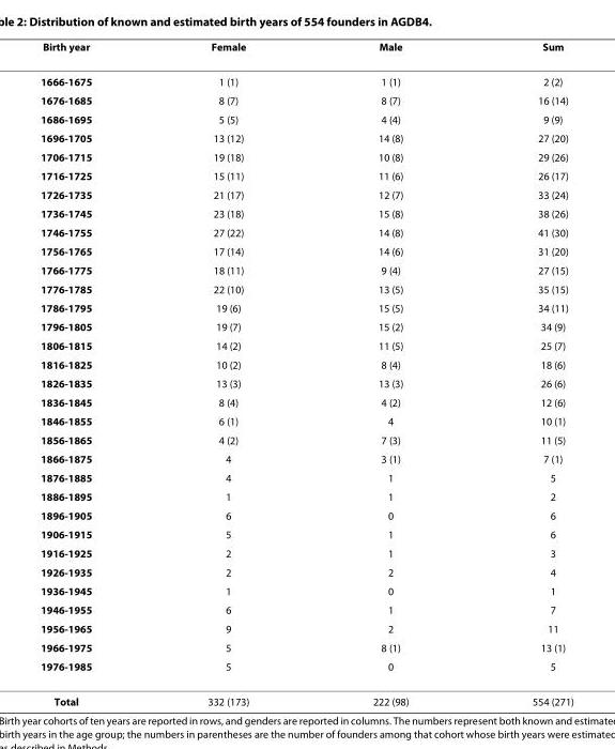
<table><thead><tr><td>Birth year</td><td>Female</td><td>Male</td><td>Sum</td></tr></thead><tbody><tr><td>1666-1675</td><td>1 (1)</td><td>1 (1)</td><td>2 (2)</td></tr><tr><td>1676-1685</td><td>8 (7)</td><td>8 (7)</td><td>16 (14)</td></tr><tr><td>1686-1695</td><td>5 (5)</td><td>4 (4)</td><td>9 (9)</td></tr><tr><td>1696-1705</td><td>13 (12)</td><td>14 (8)</td><td>27 (20)</td></tr><tr><td>1706-1715</td><td>19 (18)</td><td>10 (8)</td><td>29 (26)</td></tr><tr><td>1716-1725</td><td>15 (11)</td><td>11 (6)</td><td>26 (17)</td></tr><tr><td>1726-1735</td><td>21 (17)</td><td>12 (7)</td><td>33 (24)</td></tr><tr><td>1736-1745</td><td>23 (18)</td><td>15 (8)</td><td>38 (26)</td></tr><tr><td>1746-1755</td><td>27 (22)</td><td>14 (8)</td><td>41 (30)</td></tr><tr><td>1756-1765</td><td>17 (14)</td><td>14 (6)</td><td>31 (20)</td></tr><tr><td>1766-1775</td><td>18 (11)</td><td>9 (4)</td><td>27 (15)</td></tr><tr><td>1776-1785</td><td>22 (10)</td><td>13 (5)</td><td>35 (15)</td></tr><tr><td>1786-1795</td><td>19 (6)</td><td>15 (5)</td><td>34 (11)</td></tr><tr><td>1796-1805</td><td>19 (7)</td><td>15 (2)</td><td>34 (9)</td></tr><tr><td>1806-1815</td><td>14 (2)</td><td>11 (5)</td><td>25 (7)</td></tr><tr><td>1816-1825</td><td>10 (2)</td><td>8 (4)</td><td>18 (6)</td></tr><tr><td>1826-1835</td><td>13 (3)</td><td>13 (3)</td><td>26 (6)</td></tr><tr><td>1836-1845</td><td>8 (4)</td><td>4 (2)</td><td>12 (6)</td></tr><tr><td>1846-1855</td><td>6 (1)</td><td>4</td><td>10 (1)</td></tr><tr><td>1856-1865</td><td>4 (2)</td><td>7 (3)</td><td>11 (5)</td></tr><tr><td>1866-1875</td><td>4</td><td>3 (1)</td><td>7 (1)</td></tr><tr><td>1876-1885</td><td>4</td><td>1</td><td>5</td></tr><tr><td>1886-1895</td><td>1</td><td>1</td><td>2</td></tr><tr><td>1896-1905</td><td>6</td><td>0</td><td>6</td></tr><tr><td>1906-1915</td><td>5</td><td>1</td><td>6</td></tr><tr><td>1916-1925</td><td>2</td><td>1</td><td>3</td></tr><tr><td>1926-1935</td><td>2</td><td>2</td><td>4</td></tr><tr><td>1936-1945</td><td>1</td><td>0</td><td>1</td></tr><tr><td>1946-1955</td><td>6</td><td>1</td><td>7</td></tr><tr><td>1956-1965</td><td>9</td><td>2</td><td>11</td></tr><tr><td>1966-1975</td><td>5</td><td>8 (1)</td><td>13 (1)</td></tr><tr><td>1976-1985</td><td>5</td><td>0</td><td>5</td></tr><tr><td>Total</td><td>332 (173)</td><td>222 (98)</td><td>554 (271)</td></tr></tbody></table>